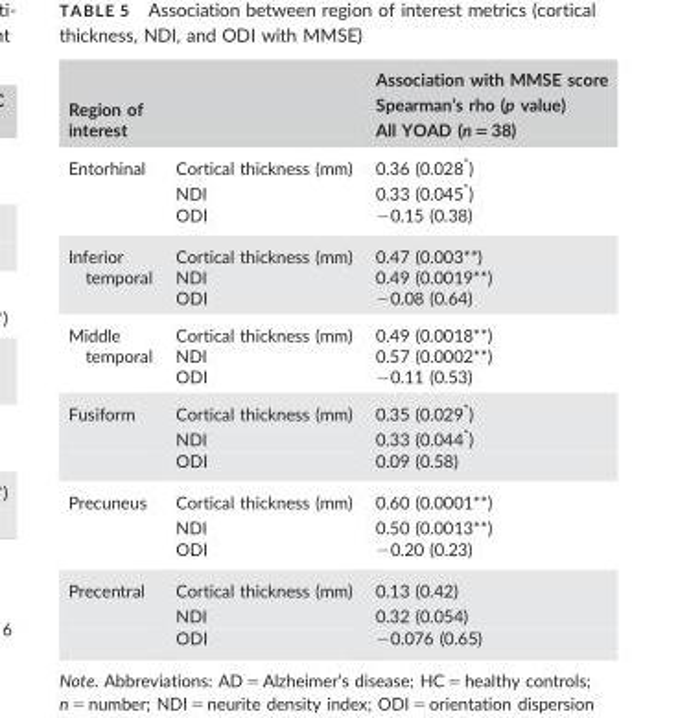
<table><thead><tr><td colspan="2">Region of interest</td><td rowspan="2">Association with MMSE score Spearman’s rho (p value) All YOAD (n = 38) 0.36 (0.028*)</td></tr><tr><td>Entorhinal</td><td>Cortical thickness (mm)</td></tr></thead><tbody><tr><td></td><td>NDI</td><td>0.33 (0.045*)</td></tr><tr><td></td><td>ODI</td><td>−0.15 (0.38)</td></tr><tr><td>Inferior temporal</td><td>Cortical thickness (mm) NDI ODI</td><td>0.47 (0.003**) 0.49 (0.0019**) −0.08 (0.64)</td></tr><tr><td>Middle temporal</td><td>Cortical thickness (mm) NDI ODI</td><td>0.49 (0.0018**) 0.57 (0.0002**) −0.11 (0.53)</td></tr><tr><td rowspan="3">Fusiform</td><td>Cortical thickness (mm)</td><td>0.35 (0.029*)</td></tr><tr><td>NDI</td><td>0.33 (0.044*)</td></tr><tr><td>ODI</td><td>0.09 (0.58)</td></tr><tr><td rowspan="3">Precuneus</td><td>Cortical thickness (mm)</td><td>0.60 (0.0001**)</td></tr><tr><td>NDI</td><td>0.50 (0.0013**)</td></tr><tr><td>ODI</td><td>−0.20 (0.23)</td></tr><tr><td rowspan="3">Precentral</td><td>Cortical thickness (mm)</td><td>0.13 (0.42)</td></tr><tr><td>NDI</td><td>0.32 (0.054)</td></tr><tr><td>ODI</td><td>−0.076 (0.65)</td></tr></tbody></table>